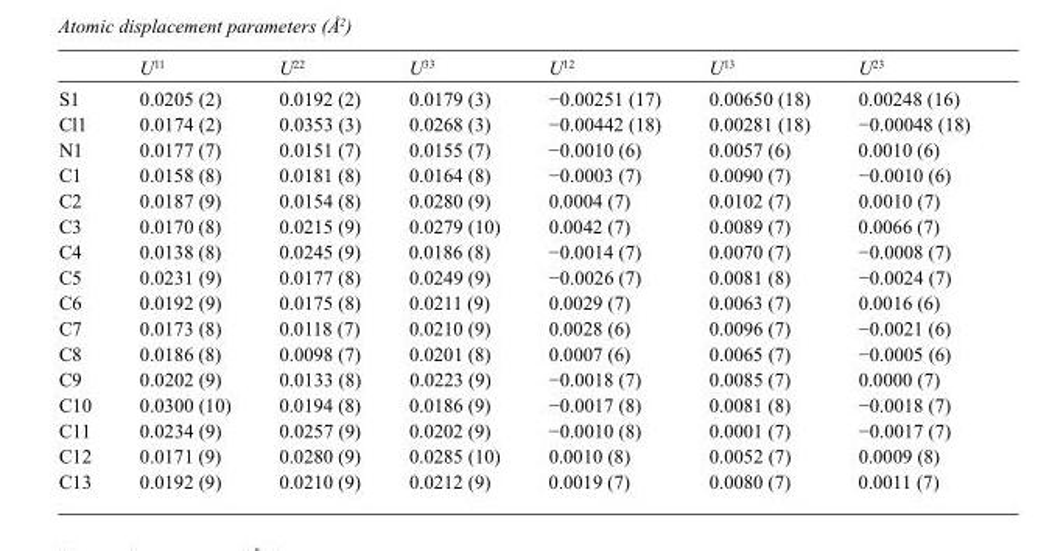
<table><thead><tr><td></td><td>U<sup>11</sup></td><td>U<sup>22</sup></td><td>U<sup>33</sup></td><td>U<sup>12</sup></td><td>U<sup>13</sup></td><td>U<sup>23</sup></td></tr></thead><tbody><tr><td>S1</td><td>0.0205 (2)</td><td>0.0192 (2)</td><td>0.0179 (3)</td><td>−0.00251 (17)</td><td>0.00650 (18)</td><td>0.00248 (16)</td></tr><tr><td>Cl1</td><td>0.0174 (2)</td><td>0.0353 (3)</td><td>0.0268 (3)</td><td>−0.00442 (18)</td><td>0.00281 (18)</td><td>−0.00048 (18)</td></tr><tr><td>N1</td><td>0.0177 (7)</td><td>0.0151 (7)</td><td>0.0155 (7)</td><td>−0.0010 (6)</td><td>0.0057 (6)</td><td>0.0010 (6)</td></tr><tr><td>C1</td><td>0.0158 (8)</td><td>0.0181 (8)</td><td>0.0164 (8)</td><td>−0.0003 (7)</td><td>0.0090 (7)</td><td>−0.0010 (6)</td></tr><tr><td>C2</td><td>0.0187 (9)</td><td>0.0154 (8)</td><td>0.0280 (9)</td><td>0.0004 (7)</td><td>0.0102 (7)</td><td>0.0010 (7)</td></tr><tr><td>C3</td><td>0.0170 (8)</td><td>0.0215 (9)</td><td>0.0279 (10)</td><td>0.0042 (7)</td><td>0.0089 (7)</td><td>0.0066 (7)</td></tr><tr><td>C4</td><td>0.0138 (8)</td><td>0.0245 (9)</td><td>0.0186 (8)</td><td>−0.0014 (7)</td><td>0.0070 (7)</td><td>−0.0008 (7)</td></tr><tr><td>C5</td><td>0.0231 (9)</td><td>0.0177 (8)</td><td>0.0249 (9)</td><td>−0.0026 (7)</td><td>0.0081 (8)</td><td>−0.0024 (7)</td></tr><tr><td>C6</td><td>0.0192 (9)</td><td>0.0175 (8)</td><td>0.0211 (9)</td><td>0.0029 (7)</td><td>0.0063 (7)</td><td>0.0016 (6)</td></tr><tr><td>C7</td><td>0.0173 (8)</td><td>0.0118 (7)</td><td>0.0210 (9)</td><td>0.0028 (6)</td><td>0.0096 (7)</td><td>−0.0021 (6)</td></tr><tr><td>C8</td><td>0.0186 (8)</td><td>0.0098 (7)</td><td>0.0201 (8)</td><td>0.0007 (6)</td><td>0.0065 (7)</td><td>−0.0005 (6)</td></tr><tr><td>C9</td><td>0.0202 (9)</td><td>0.0133 (8)</td><td>0.0223 (9)</td><td>−0.0018 (7)</td><td>0.0085 (7)</td><td>0.0000 (7)</td></tr><tr><td>C10</td><td>0.0300 (10)</td><td>0.0194 (8)</td><td>0.0186 (9)</td><td>−0.0017 (8)</td><td>0.0081 (8)</td><td>−0.0018 (7)</td></tr><tr><td>C11</td><td>0.0234 (9)</td><td>0.0257 (9)</td><td>0.0202 (9)</td><td>−0.0010 (8)</td><td>0.0001 (7)</td><td>−0.0017 (7)</td></tr><tr><td>C12</td><td>0.0171 (9)</td><td>0.0280 (9)</td><td>0.0285 (10)</td><td>0.0010 (8)</td><td>0.0052 (7)</td><td>0.0009 (8)</td></tr><tr><td>C13</td><td>0.0192 (9)</td><td>0.0210 (9)</td><td>0.0212 (9)</td><td>0.0019 (7)</td><td>0.0080 (7)</td><td>0.0011 (7)</td></tr></tbody></table>